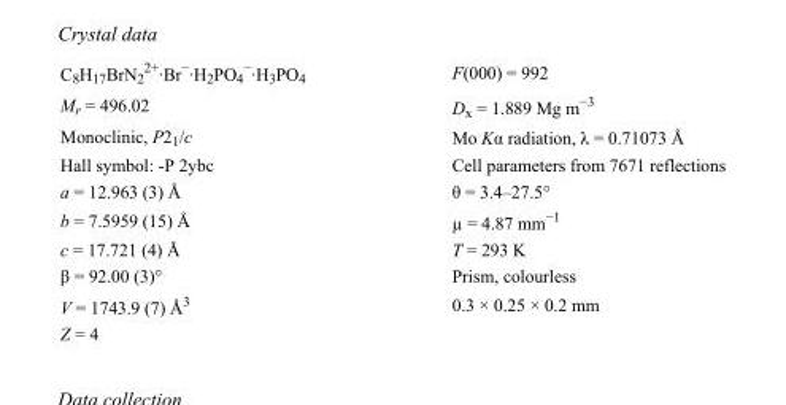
<table><tbody><tr><td>C<sub>8</sub>H<sub>17</sub>BrN<sub>2</sub> <sup>2+</sup>·Br<sup>−</sup>·H<sub>2</sub>PO<sub>4</sub> <sup>−</sup>·H<sub>3</sub>PO<sub>4</sub></td><td>F(000) = 992</td></tr><tr><td>M<sub>r</sub> = 496.02</td><td>D<sub>x</sub> = 1.889 Mg m<sup>−3</sup></td></tr><tr><td>Monoclinic, P2<sub>1</sub>/c</td><td>Mo Kα radiation, λ = 0.71073 Å</td></tr><tr><td>Hall symbol: -P 2ybc</td><td>Cell parameters from 7671 reflections</td></tr><tr><td>a = 12.963 (3) Å</td><td>θ = 3.4–27.5°</td></tr><tr><td>b = 7.5959 (15) Å</td><td>µ = 4.87 mm<sup>−1</sup></td></tr><tr><td>c = 17.721 (4) Å</td><td>T = 293 K</td></tr><tr><td>β = 92.00 (3)°</td><td>Prism, colourless</td></tr><tr><td>V = 1743.9 (7) Å<sup>3</sup></td><td>0.3 × 0.25 × 0.2 mm</td></tr><tr><td>Z = 4</td><td></td></tr></tbody></table>